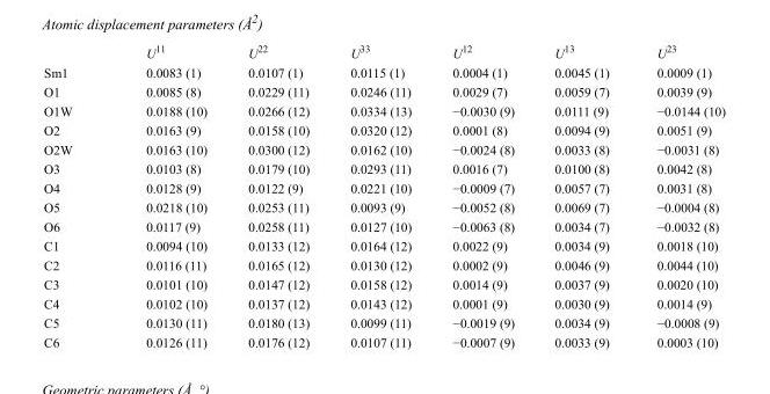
<table><thead><tr><td></td><td>U<sup>11</sup></td><td>U<sup>22</sup></td><td>U<sup>33</sup></td><td>U<sup>12</sup></td><td>U<sup>13</sup></td><td>U<sup>23</sup></td></tr></thead><tbody><tr><td>Sm1</td><td>0.0083 (1)</td><td>0.0107 (1)</td><td>0.0115 (1)</td><td>0.0004 (1)</td><td>0.0045 (1)</td><td>0.0009 (1)</td></tr><tr><td>O1</td><td>0.0085 (8)</td><td>0.0229 (11)</td><td>0.0246 (11)</td><td>0.0029 (7)</td><td>0.0059 (7)</td><td>0.0039 (9)</td></tr><tr><td>O1W</td><td>0.0188 (10)</td><td>0.0266 (12)</td><td>0.0334 (13)</td><td>−0.0030 (9)</td><td>0.0111 (9)</td><td>−0.0144 (10)</td></tr><tr><td>O2</td><td>0.0163 (9)</td><td>0.0158 (10)</td><td>0.0320 (12)</td><td>0.0001 (8)</td><td>0.0094 (9)</td><td>0.0051 (9)</td></tr><tr><td>O2W</td><td>0.0163 (10)</td><td>0.0300 (12)</td><td>0.0162 (10)</td><td>−0.0024 (8)</td><td>0.0033 (8)</td><td>−0.0031 (8)</td></tr><tr><td>O3</td><td>0.0103 (8)</td><td>0.0179 (10)</td><td>0.0293 (11)</td><td>0.0016 (7)</td><td>0.0100 (8)</td><td>0.0042 (8)</td></tr><tr><td>O4</td><td>0.0128 (9)</td><td>0.0122 (9)</td><td>0.0221 (10)</td><td>−0.0009 (7)</td><td>0.0057 (7)</td><td>0.0031 (8)</td></tr><tr><td>O5</td><td>0.0218 (10)</td><td>0.0253 (11)</td><td>0.0093 (9)</td><td>−0.0052 (8)</td><td>0.0069 (7)</td><td>−0.0004 (8)</td></tr><tr><td>O6</td><td>0.0117 (9)</td><td>0.0258 (11)</td><td>0.0127 (10)</td><td>−0.0063 (8)</td><td>0.0034 (7)</td><td>−0.0032 (8)</td></tr><tr><td>C1</td><td>0.0094 (10)</td><td>0.0133 (12)</td><td>0.0164 (12)</td><td>0.0022 (9)</td><td>0.0034 (9)</td><td>0.0018 (10)</td></tr><tr><td>C2</td><td>0.0116 (11)</td><td>0.0165 (12)</td><td>0.0130 (12)</td><td>0.0002 (9)</td><td>0.0046 (9)</td><td>0.0044 (10)</td></tr><tr><td>C3</td><td>0.0101 (10)</td><td>0.0147 (12)</td><td>0.0158 (12)</td><td>0.0014 (9)</td><td>0.0037 (9)</td><td>0.0020 (10)</td></tr><tr><td>C4</td><td>0.0102 (10)</td><td>0.0137 (12)</td><td>0.0143 (12)</td><td>0.0001 (9)</td><td>0.0030 (9)</td><td>0.0014 (9)</td></tr><tr><td>C5</td><td>0.0130 (11)</td><td>0.0180 (13)</td><td>0.0099 (11)</td><td>−0.0019 (9)</td><td>0.0034 (9)</td><td>−0.0008 (9)</td></tr><tr><td>C6</td><td>0.0126 (11)</td><td>0.0176 (12)</td><td>0.0107 (11)</td><td>−0.0007 (9)</td><td>0.0033 (9)</td><td>0.0003 (10)</td></tr></tbody></table>